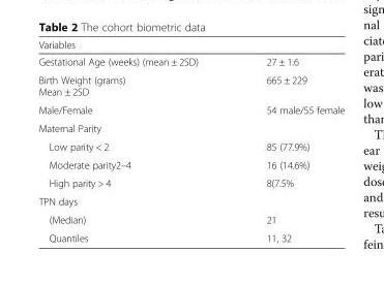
<table><thead><tr><td>Variables</td><td></td></tr></thead><tbody><tr><td>Gestational Age (weeks) (mean ± 2SD)</td><td>27 ± 1.6</td></tr><tr><td>Birth Weight (grams) Mean ± 2SD</td><td>665 ± 229</td></tr><tr><td>Male/Female</td><td>54 male/55 female</td></tr><tr><td colspan="2">Maternal Parity</td></tr><tr><td>Low parity &lt; 2</td><td>85 (77.9%)</td></tr><tr><td>Moderate parity2–4</td><td>16 (14.6%)</td></tr><tr><td>High parity &gt; 4</td><td>8(7.5%</td></tr><tr><td colspan="2">TPN days</td></tr><tr><td>(Median)</td><td>21</td></tr><tr><td>Quantiles</td><td>11, 32</td></tr></tbody></table>